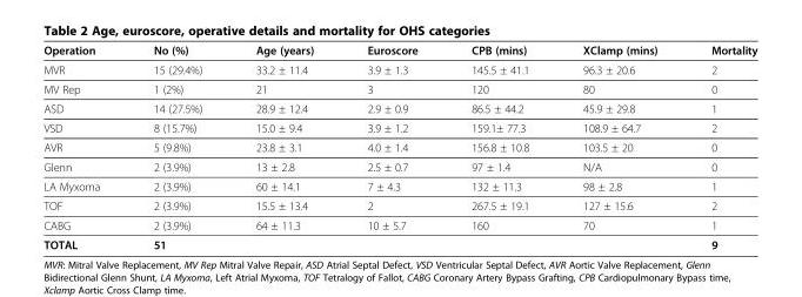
<table><thead><tr><td>Operation</td><td>No (%)</td><td>Age (years)</td><td>Euroscore</td><td>CPB (mins)</td><td>XClamp (mins)</td><td>Mortality</td></tr></thead><tbody><tr><td>MVR</td><td>15 (29.4%)</td><td>33.2 ± 11.4</td><td>3.9 ± 1.3</td><td>145.5 ± 41.1</td><td>96.3 ± 20.6</td><td>2</td></tr><tr><td>MV Rep</td><td>1 (2%)</td><td>21</td><td>3</td><td>120</td><td>80</td><td>0</td></tr><tr><td>ASD</td><td>14 (27.5%)</td><td>28.9 ± 12.4</td><td>2.9 ± 0.9</td><td>86.5 ± 44.2</td><td>45.9 ± 29.8</td><td>1</td></tr><tr><td>VSD</td><td>8 (15.7%)</td><td>15.0 ± 9.4</td><td>3.9 ± 1.2</td><td>159.1± 77.3</td><td>108.9 ± 64.7</td><td>2</td></tr><tr><td>AVR</td><td>5 (9.8%)</td><td>23.8 ± 3.1</td><td>4.0 ± 1.4</td><td>156.8 ± 10.8</td><td>103.5 ± 20</td><td>0</td></tr><tr><td>Glenn</td><td>2 (3.9%)</td><td>13 ± 2.8</td><td>2.5 ± 0.7</td><td>97 ± 1.4</td><td>N/A</td><td>0</td></tr><tr><td>LA Myxoma</td><td>2 (3.9%)</td><td>60 ± 14.1</td><td>7 ± 4.3</td><td>132 ± 11.3</td><td>98 ± 2.8</td><td>1</td></tr><tr><td>TOF</td><td>2 (3.9%)</td><td>15.5 ± 13.4</td><td>2</td><td>267.5 ± 19.1</td><td>127 ± 15.6</td><td>2</td></tr><tr><td>CABG</td><td>2 (3.9%)</td><td>64 ± 11.3</td><td>10 ± 5.7</td><td>160</td><td>70</td><td>1</td></tr><tr><td>TOTAL</td><td>51</td><td></td><td></td><td></td><td></td><td>9</td></tr></tbody></table>